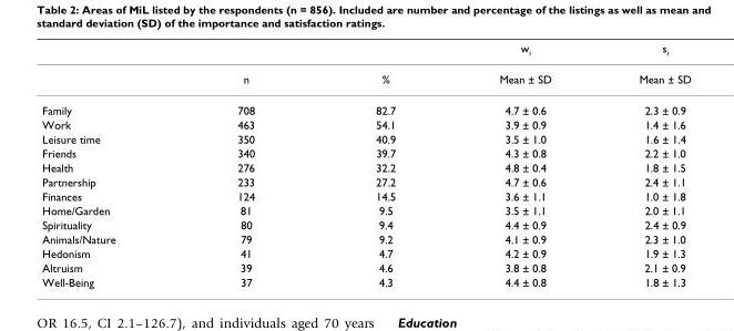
<table><thead><tr><td></td><td></td><td></td><td>w<sub>i</sub></td><td>s<sub>i</sub></td></tr></thead><tbody><tr><td></td><td>n</td><td>%</td><td>Mean ± SD</td><td>Mean ± SD</td></tr><tr><td>Family</td><td>708</td><td>82.7</td><td>4.7 ± 0.6</td><td>2.3 ± 0.9</td></tr><tr><td>Work</td><td>463</td><td>54.1</td><td>3.9 ± 0.9</td><td>1.4 ± 1.6</td></tr><tr><td>Leisure time</td><td>350</td><td>40.9</td><td>3.5 ± 1.0</td><td>1.6 ± 1.4</td></tr><tr><td>Friends</td><td>340</td><td>39.7</td><td>4.3 ± 0.8</td><td>2.2 ± 1.0</td></tr><tr><td>Health</td><td>276</td><td>32.2</td><td>4.8 ± 0.4</td><td>1.8 ± 1.5</td></tr><tr><td>Partnership</td><td>233</td><td>27.2</td><td>4.7 ± 0.6</td><td>2.4 ± 1.1</td></tr><tr><td>Finances</td><td>124</td><td>14.5</td><td>3.6 ± 1.1</td><td>1.0 ± 1.8</td></tr><tr><td>Home/Garden</td><td>81</td><td>9.5</td><td>3.5 ± 1.1</td><td>2.0 ± 1.1</td></tr><tr><td>Spirituality</td><td>80</td><td>9.4</td><td>4.4 ± 0.9</td><td>2.4 ± 0.9</td></tr><tr><td>Animals/Nature</td><td>79</td><td>9.2</td><td>4.1 ± 0.9</td><td>2.3 ± 1.0</td></tr><tr><td>Hedonism</td><td>41</td><td>4.7</td><td>4.2 ± 0.9</td><td>1.9 ± 1.3</td></tr><tr><td>Altruism</td><td>39</td><td>4.6</td><td>3.8 ± 0.8</td><td>2.1 ± 0.9</td></tr><tr><td>Well-Being</td><td>37</td><td>4.3</td><td>4.4 ± 0.8</td><td>1.8 ± 1.3</td></tr></tbody></table>